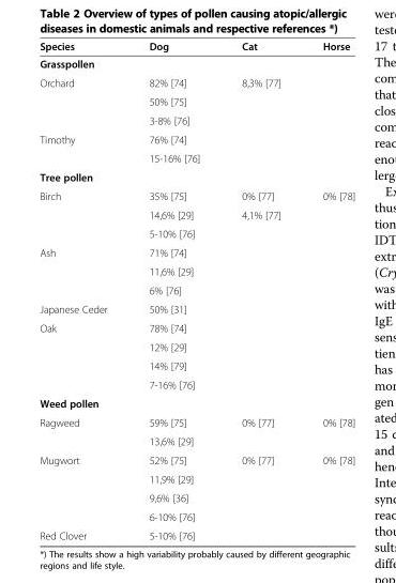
<table><thead><tr><td>Species</td><td>Dog</td><td>Cat</td><td>Horse</td></tr></thead><tbody><tr><td colspan="4">Grasspollen</td></tr><tr><td rowspan="3">Orchard</td><td>82% [74]</td><td rowspan="3">8,3% [77]</td><td rowspan="3"></td></tr><tr><td>50% [75]</td></tr><tr><td>3-8% [76]</td></tr><tr><td rowspan="2">Timothy</td><td>76% [74]</td><td rowspan="2"></td><td rowspan="2"></td></tr><tr><td>15-16% [76]</td></tr><tr><td colspan="4">Tree pollen</td></tr><tr><td rowspan="3">Birch</td><td>35% [75]</td><td>0% [77]</td><td rowspan="3">0% [78]</td></tr><tr><td>14,6% [29]</td><td rowspan="2">4,1% [77]</td></tr><tr><td>5-10% [76]</td></tr><tr><td rowspan="3">Ash</td><td>71% [74]</td><td rowspan="3"></td><td rowspan="3"></td></tr><tr><td>11,6% [29]</td></tr><tr><td>6% [76]</td></tr><tr><td>Japanese Ceder</td><td>50% [31]</td><td></td><td></td></tr><tr><td rowspan="4">Oak</td><td>78% [74]</td><td rowspan="4"></td><td rowspan="4"></td></tr><tr><td>12% [29]</td></tr><tr><td>14% [79]</td></tr><tr><td>7-16% [76]</td></tr><tr><td colspan="4">Weed pollen</td></tr><tr><td rowspan="2">Ragweed</td><td>59% [75]</td><td rowspan="2">0% [77]</td><td rowspan="2">0% [78]</td></tr><tr><td>13,6% [29]</td></tr><tr><td rowspan="4">Mugwort</td><td>52% [75]</td><td rowspan="4">0% [77]</td><td rowspan="4">0% [78]</td></tr><tr><td>11,9% [29]</td></tr><tr><td>9,6% [36]</td></tr><tr><td>6-10% [76]</td></tr><tr><td>Red Clover</td><td>5-10% [76]</td><td></td><td></td></tr></tbody></table>